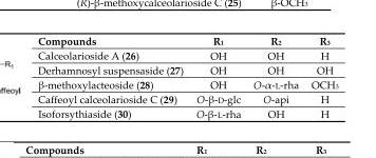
<table><tbody><tr><td>Compounds</td><td>R<sub>1</sub></td><td>R<sub>2</sub></td><td>R<sub>3</sub></td></tr><tr><td>Calceolarioside A (26)</td><td>OH</td><td>OH</td><td>H</td></tr><tr><td>Derhamnosyl suspensaside (27)</td><td>OH</td><td>OH</td><td>OH</td></tr><tr><td>β-methoxylacteoside (28)</td><td>OH</td><td>O-α-L-rha</td><td>OCH<sub>3</sub></td></tr><tr><td>Caffeoyl calceolarioside C (29)</td><td>O-β-D-glc</td><td>O-api</td><td>H</td></tr><tr><td>Isoforsythiaside (30)</td><td>O-β-L-rha</td><td>OH</td><td>H</td></tr></tbody></table>